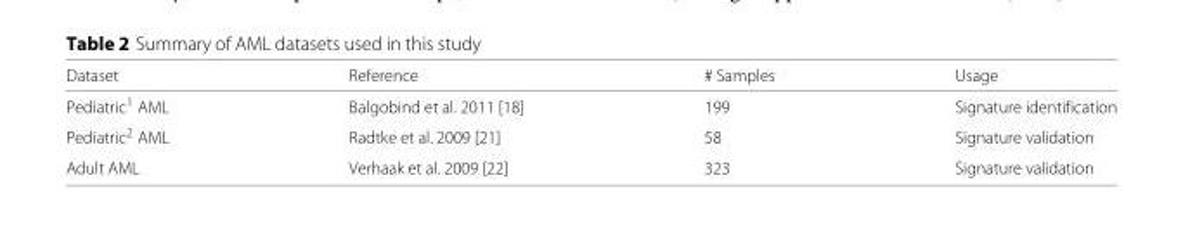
<table><thead><tr><td>Dataset</td><td>Reference</td><td># Samples</td><td>Usage</td></tr></thead><tbody><tr><td>Pediatric<sup>1</sup> AML</td><td>Balgobind et al. 2011 [18]</td><td>199</td><td>Signature identification</td></tr><tr><td>Pediatric<sup>2</sup> AML</td><td>Radtke et al. 2009 [21]</td><td>58</td><td>Signature validation</td></tr><tr><td>Adult AML</td><td>Verhaak et al. 2009 [22]</td><td>323</td><td>Signature validation</td></tr></tbody></table>